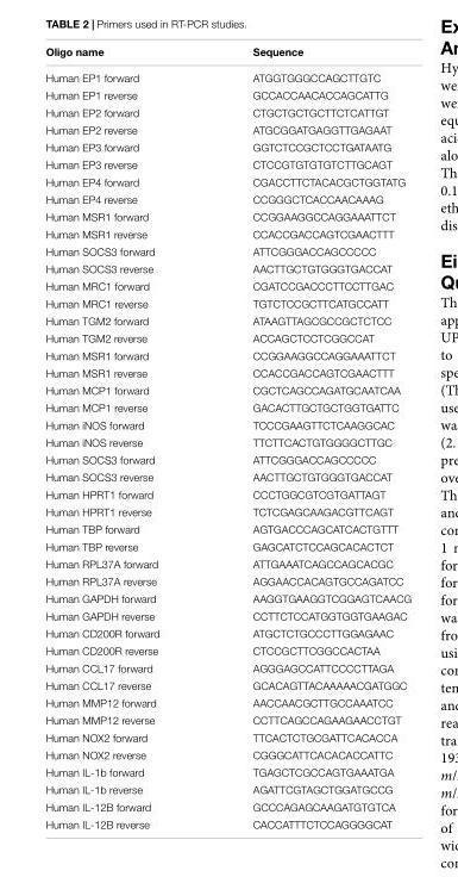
<table><thead><tr><td>Oligo name</td><td>Sequence</td></tr></thead><tbody><tr><td>Human EP1 forward</td><td>ATGGTGGGCCAGCTTGTC</td></tr><tr><td>Human EP1 reverse</td><td>GCCACCAACACCAGCATTG</td></tr><tr><td>Human EP2 forward</td><td>CTGCTGCTGCTTCTCATTGT</td></tr><tr><td>Human EP2 reverse</td><td>ATGCGGATGAGGTTGAGAAT</td></tr><tr><td>Human EP3 forward</td><td>GGTCTCCGCTCCTGATAATG</td></tr><tr><td>Human EP3 reverse</td><td>CTCCGTGTGTGTCTTGCAGT</td></tr><tr><td>Human EP4 forward</td><td>CGACCTTCTACACGCTGGTATG</td></tr><tr><td>Human EP4 reverse</td><td>CCGGGCTCACCAACAAAG</td></tr><tr><td>Human MSR1 forward</td><td>CCGGAAGGCCAGGAAATTCT</td></tr><tr><td>Human MSR1 reverse</td><td>CCACCGACCAGTCGAACTTT</td></tr><tr><td>Human SOCS3 forward</td><td>ATTCGGGACCAGCCCCC</td></tr><tr><td>Human SOCS3 reverse</td><td>AACTTGCTGTGGGTGACCAT</td></tr><tr><td>Human MRC1 forward</td><td>CGATCCGACCCTTCCTTGAC</td></tr><tr><td>Human MRC1 reverse</td><td>TGTCTCCGCTTCATGCCATT</td></tr><tr><td>Human TGM2 forward</td><td>ATAAGTTAGCGCCGCTCTCC</td></tr><tr><td>Human TGM2 reverse</td><td>ACCAGCTCCTCGGCCAT</td></tr><tr><td>Human MSR1 forward</td><td>CCGGAAGGCCAGGAAATTCT</td></tr><tr><td>Human MSR1 reverse</td><td>CCACCGACCAGTCGAACTTT</td></tr><tr><td>Human MCP1 forward</td><td>CGCTCAGCCAGATGCAATCAA</td></tr><tr><td>Human MCP1 reverse</td><td>GACACTTGCTGCTGGTGATTC</td></tr><tr><td>Human iNOS forward</td><td>TCCCGAAGTTCTCAAGGCAC</td></tr><tr><td>Human iNOS reverse</td><td>TTCTTCACTGTGGGGCTTGC</td></tr><tr><td>Human SOCS3 forward</td><td>ATTCGGGACCAGCCCCC</td></tr><tr><td>Human SOCS3 reverse</td><td>AACTTGCTGTGGGTGACCAT</td></tr><tr><td>Human HPRT1 forward</td><td>CCCTGGCGTCGTGATTAGT</td></tr><tr><td>Human HPRT1 reverse</td><td>TCTCGAGCAAGACGTTCAGT</td></tr><tr><td>Human TBP forward</td><td>AGTGACCCAGCATCACTGTTT</td></tr><tr><td>Human TBP reverse</td><td>GAGCATCTCCAGCACACTCT</td></tr><tr><td>Human RPL37A forward</td><td>ATTGAAATCAGCCAGCACGC</td></tr><tr><td>Human RPL37A reverse</td><td>AGGAACCACAGTGCCAGATCC</td></tr><tr><td>Human GAPDH forward</td><td>AAGGTGAAGGTCGGAGTCAACG</td></tr><tr><td>Human GAPDH reverse</td><td>CCTTCTCCATGGTGGTGAAGAC</td></tr><tr><td>Human CD200R forward</td><td>ATGCTCTGCCCTTGGAGAAC</td></tr><tr><td>Human CD200R reverse</td><td>CTCCGCTTCGGCCACTAA</td></tr><tr><td>Human CCL17 forward</td><td>AGGGAGCCATTCCCCTTAGA</td></tr><tr><td>Human CCL17 reverse</td><td>GCACAGTTACAAAAACGATGGC</td></tr><tr><td>Human MMP12 forward</td><td>AACCAACGCTTGCCAAATCC</td></tr><tr><td>Human MMP12 reverse</td><td>CCTTCAGCCAGAAGAACCTGT</td></tr><tr><td>Human NOX2 forward</td><td>TTCACTCTGCGATTCACACCA</td></tr><tr><td>Human NOX2 reverse</td><td>CGGGCATTCACACACCATTC</td></tr><tr><td>Human IL-1b forward</td><td>TGAGCTCGCCAGTGAAATGA</td></tr><tr><td>Human IL-1b reverse</td><td>AGATTCGTAGCTGGATGCCG</td></tr><tr><td>Human IL-12B forward</td><td>GCCCAGAGCAAGATGTGTCA</td></tr><tr><td>Human IL-12B reverse</td><td>CACCATTTCTCCAGGGGCAT</td></tr></tbody></table>